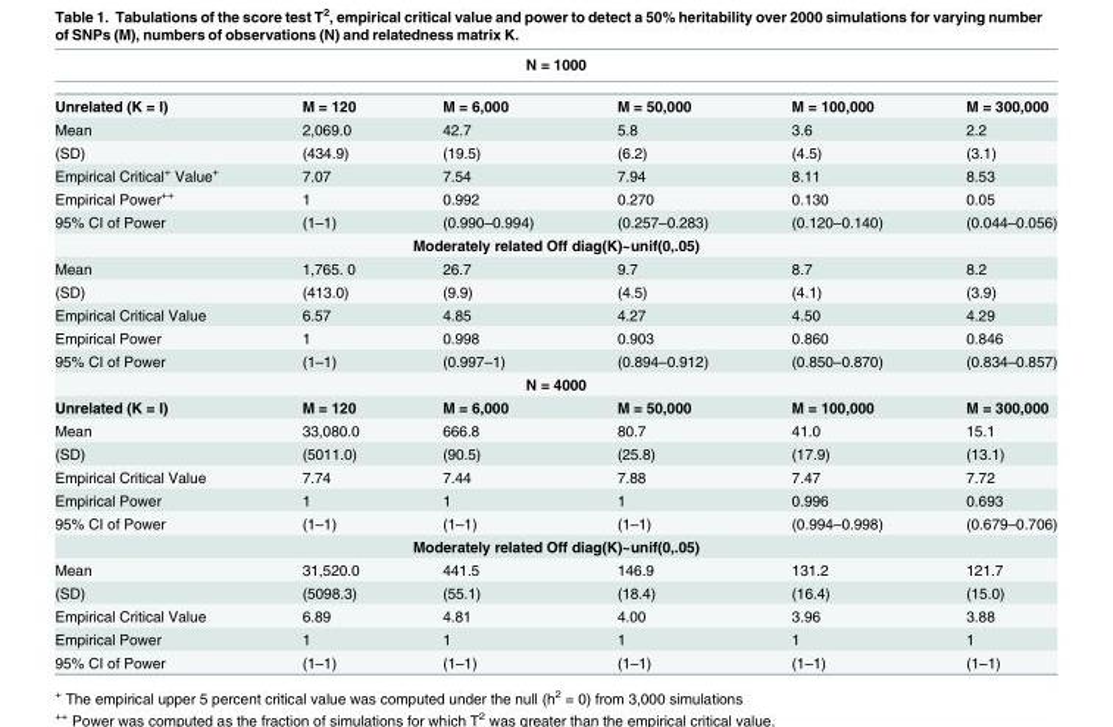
<table><thead><tr><td colspan="6">N = 1000</td></tr><tr><td>Unrelated (K = I)</td><td>M = 120</td><td>M = 6,000</td><td>M = 50,000</td><td>M = 100,000</td><td>M = 300,000</td></tr></thead><tbody><tr><td>Mean</td><td>2,069.0</td><td>42.7</td><td>5.8</td><td>3.6</td><td>2.2</td></tr><tr><td>(SD)</td><td>(434.9)</td><td>(19.5)</td><td>(6.2)</td><td>(4.5)</td><td>(3.1)</td></tr><tr><td>Empirical Critical<sup>+</sup> Value<sup>+</sup></td><td>7.07</td><td>7.54</td><td>7.94</td><td>8.11</td><td>8.53</td></tr><tr><td>Empirical Power<sup>++</sup></td><td>1</td><td>0.992</td><td>0.270</td><td>0.130</td><td>0.05</td></tr><tr><td>95% CI of Power</td><td>(1–1)</td><td>(0.990–0.994)</td><td>(0.257–0.283)</td><td>(0.120–0.140)</td><td>(0.044–0.056)</td></tr><tr><td colspan="6">Moderately related Off diag(K)~unif(0,.05)</td></tr><tr><td>Mean</td><td>1,765. 0</td><td>26.7</td><td>9.7</td><td>8.7</td><td>8.2</td></tr><tr><td>(SD)</td><td>(413.0)</td><td>(9.9)</td><td>(4.5)</td><td>(4.1)</td><td>(3.9)</td></tr><tr><td>Empirical Critical Value</td><td>6.57</td><td>4.85</td><td>4.27</td><td>4.50</td><td>4.29</td></tr><tr><td>Empirical Power</td><td>1</td><td>0.998</td><td>0.903</td><td>0.860</td><td>0.846</td></tr><tr><td>95% CI of Power</td><td>(1–1)</td><td>(0.997–1)</td><td>(0.894–0.912)</td><td>(0.850–0.870)</td><td>(0.834–0.857)</td></tr><tr><td colspan="6">N = 4000</td></tr><tr><td>Unrelated (K = I)</td><td>M = 120</td><td>M = 6,000</td><td>M = 50,000</td><td>M = 100,000</td><td>M = 300,000</td></tr><tr><td>Mean</td><td>33,080.0</td><td>666.8</td><td>80.7</td><td>41.0</td><td>15.1</td></tr><tr><td>(SD)</td><td>(5011.0)</td><td>(90.5)</td><td>(25.8)</td><td>(17.9)</td><td>(13.1)</td></tr><tr><td>Empirical Critical Value</td><td>7.74</td><td>7.44</td><td>7.88</td><td>7.47</td><td>7.72</td></tr><tr><td>Empirical Power</td><td>1</td><td>1</td><td>1</td><td>0.996</td><td>0.693</td></tr><tr><td>95% CI of Power</td><td>(1–1)</td><td>(1–1)</td><td>(1–1)</td><td>(0.994–0.998)</td><td>(0.679–0.706)</td></tr><tr><td colspan="6">Moderately related Off diag(K)~unif(0,.05)</td></tr><tr><td>Mean</td><td>31,520.0</td><td>441.5</td><td>146.9</td><td>131.2</td><td>121.7</td></tr><tr><td>(SD)</td><td>(5098.3)</td><td>(55.1)</td><td>(18.4)</td><td>(16.4)</td><td>(15.0)</td></tr><tr><td>Empirical Critical Value</td><td>6.89</td><td>4.81</td><td>4.00</td><td>3.96</td><td>3.88</td></tr><tr><td>Empirical Power</td><td>1</td><td>1</td><td>1</td><td>1</td><td>1</td></tr><tr><td>95% CI of Power</td><td>(1–1)</td><td>(1–1)</td><td>(1–1)</td><td>(1–1)</td><td>(1–1)</td></tr></tbody></table>